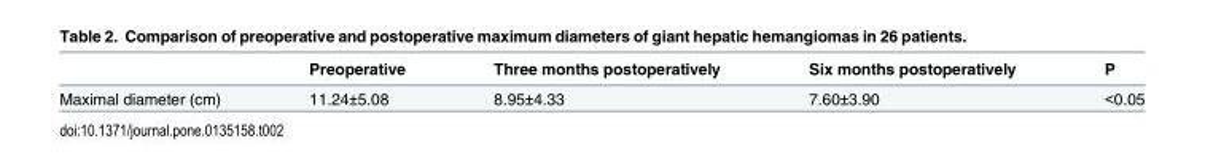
<table><thead><tr><td></td><td>Preoperative</td><td>Three months postoperatively</td><td>Six months postoperatively</td><td>P</td></tr></thead><tbody><tr><td>Maximal diameter (cm)</td><td>11.24±5.08</td><td>8.95±4.33</td><td>7.60±3.90</td><td>&lt;0.05</td></tr></tbody></table>